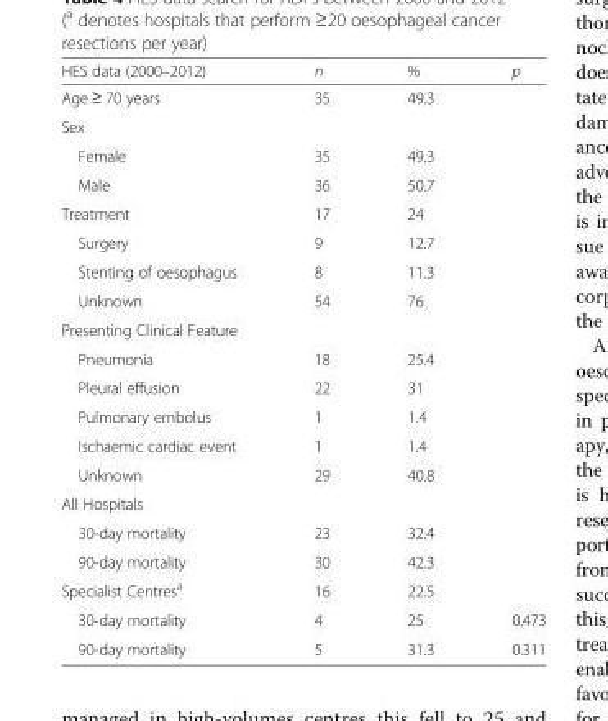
<table><thead><tr><td>HES data (2000–2012)</td><td>n</td><td>%</td><td>p</td></tr></thead><tbody><tr><td>Age ≥ 70 years</td><td>35</td><td>49.3</td><td></td></tr><tr><td colspan="4">Sex</td></tr><tr><td>Female</td><td>35</td><td>49.3</td><td></td></tr><tr><td>Male</td><td>36</td><td>50.7</td><td></td></tr><tr><td>Treatment</td><td>17</td><td>24</td><td></td></tr><tr><td>Surgery</td><td>9</td><td>12.7</td><td></td></tr><tr><td>Stenting of oesophagus</td><td>8</td><td>11.3</td><td></td></tr><tr><td>Unknown</td><td>54</td><td>76</td><td></td></tr><tr><td colspan="4">Presenting Clinical Feature</td></tr><tr><td>Pneumonia</td><td>18</td><td>25.4</td><td></td></tr><tr><td>Pleural effusion</td><td>22</td><td>31</td><td></td></tr><tr><td>Pulmonary embolus</td><td>1</td><td>1.4</td><td></td></tr><tr><td>Ischaemic cardiac event</td><td>1</td><td>1.4</td><td></td></tr><tr><td>Unknown</td><td>29</td><td>40.8</td><td></td></tr><tr><td colspan="4">All Hospitals</td></tr><tr><td>30-day mortality</td><td>23</td><td>32.4</td><td></td></tr><tr><td>90-day mortality</td><td>30</td><td>42.3</td><td></td></tr><tr><td>Specialist Centres<sup>a</sup></td><td>16</td><td>22.5</td><td></td></tr><tr><td>30-day mortality</td><td>4</td><td>25</td><td>0.473</td></tr><tr><td>90-day mortality</td><td>5</td><td>31.3</td><td>0.311</td></tr></tbody></table>